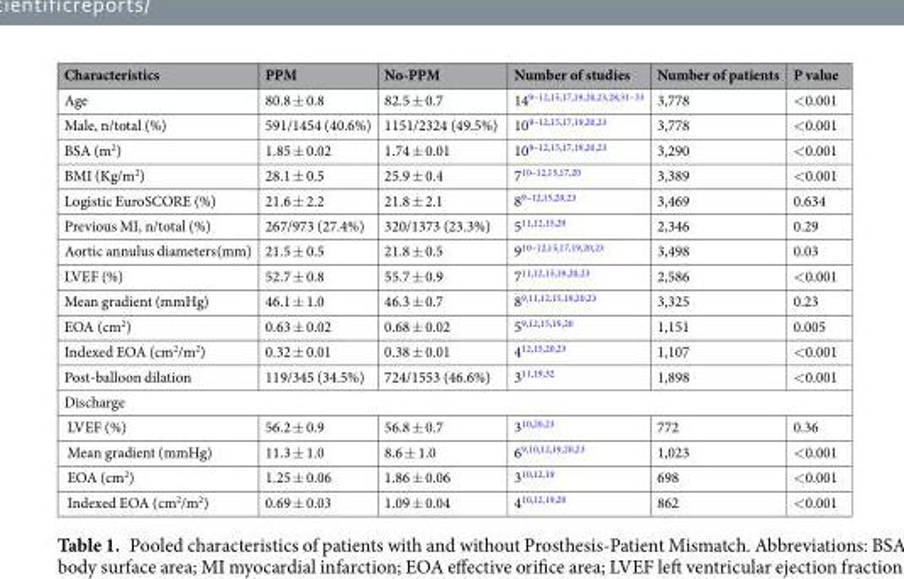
<table><thead><tr><td>Characteristics</td><td>PPM</td><td>No-PPM</td><td>Number of studies</td><td>Number of patients</td><td>P value</td></tr></thead><tbody><tr><td>Age</td><td>80.8 ± 0.8</td><td>82.5 ± 0.7</td><td>14<sup>9–12,15,17,19,20,23,28,31–33</sup></td><td>3,778</td><td>&lt;0.001</td></tr><tr><td>Male, n/total (%)</td><td>591/1454 (40.6%)</td><td>1151/2324 (49.5%)</td><td>10<sup>9–12,15,17,19,20,23</sup></td><td>3,778</td><td>&lt;0.001</td></tr><tr><td>BSA (m<sup>2</sup>)</td><td>1.85 ± 0.02</td><td>1.74 ± 0.01</td><td>10<sup>9–12,15,17,19,20,23</sup></td><td>3,290</td><td>&lt;0.001</td></tr><tr><td>BMI (Kg/m<sup>2</sup>)</td><td>28.1 ± 0.5</td><td>25.9 ± 0.4</td><td>7<sup>10–12,15,17,20</sup></td><td>3,389</td><td>&lt;0.001</td></tr><tr><td>Logistic EuroSCORE (%)</td><td>21.6 ± 2.2</td><td>21.8 ± 2.1</td><td>8<sup>9–12,15,20,23</sup></td><td>3,469</td><td>0.634</td></tr><tr><td>Previous MI, n/total (%)</td><td>267/973 (27.4%)</td><td>320/1373 (23.3%)</td><td>5<sup>11,12,15,20</sup></td><td>2,346</td><td>0.29</td></tr><tr><td>Aortic annulus diameters(mm)</td><td>21.5 ± 0.5</td><td>21.8 ± 0.5</td><td>9<sup>10–12,15,17,19,20,23</sup></td><td>3,498</td><td>0.03</td></tr><tr><td>LVEF (%)</td><td>52.7 ± 0.8</td><td>55.7 ± 0.9</td><td>7<sup>11,12,15,19,20,23</sup></td><td>2,586</td><td>&lt;0.001</td></tr><tr><td>Mean gradient (mmHg)</td><td>46.1 ± 1.0</td><td>46.3 ± 0.7</td><td>8<sup>9,11,12,15,19,20,23</sup></td><td>3,325</td><td>0.23</td></tr><tr><td>EOA (cm<sup>2</sup>)</td><td>0.63 ± 0.02</td><td>0.68 ± 0.02</td><td>5<sup>9,12,15,19,20</sup></td><td>1,151</td><td>0.005</td></tr><tr><td>Indexed EOA (cm<sup>2</sup>/m<sup>2</sup>)</td><td>0.32 ± 0.01</td><td>0.38 ± 0.01</td><td>4<sup>12,15,20,23</sup></td><td>1,107</td><td>&lt;0.001</td></tr><tr><td>Post-balloon dilation</td><td>119/345 (34.5%)</td><td>724/1553 (46.6%)</td><td>3<sup>11,19,32</sup></td><td>1,898</td><td>&lt;0.001</td></tr><tr><td colspan="6">Discharge</td></tr><tr><td>LVEF (%)</td><td>56.2 ± 0.9</td><td>56.8 ± 0.7</td><td>3<sup>10,20,23</sup></td><td>772</td><td>0.36</td></tr><tr><td>Mean gradient (mmHg)</td><td>11.3 ± 1.0</td><td>8.6 ± 1.0</td><td>6<sup>9,10,12,19,20,23</sup></td><td>1,023</td><td>&lt;0.001</td></tr><tr><td>EOA (cm<sup>2</sup>)</td><td>1.25 ± 0.06</td><td>1.86 ± 0.06</td><td>3<sup>10,12,19</sup></td><td>698</td><td>&lt;0.001</td></tr><tr><td>Indexed EOA (cm<sup>2</sup>/m<sup>2</sup>)</td><td>0.69 ± 0.03</td><td>1.09 ± 0.04</td><td>4<sup>10,12,19,20</sup></td><td>862</td><td>&lt;0.001</td></tr></tbody></table>